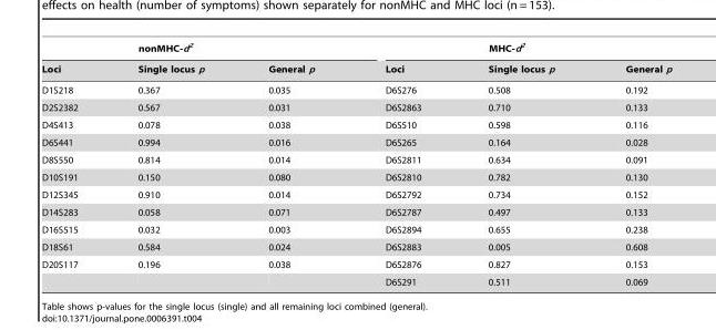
<table><thead><tr><td colspan="3">nonMHC-d<sup>2</sup></td><td colspan="3">MHC-d<sup>2</sup></td></tr><tr><td>Loci</td><td>Single locus p</td><td>General p</td><td>Loci</td><td>Single locus p</td><td>General p</td></tr></thead><tbody><tr><td>D1S218</td><td>0.367</td><td>0.035</td><td>D6S276</td><td>0.508</td><td>0.192</td></tr><tr><td>D2S2382</td><td>0.567</td><td>0.031</td><td>D6S2863</td><td>0.710</td><td>0.133</td></tr><tr><td>D4S413</td><td>0.078</td><td>0.038</td><td>D6S510</td><td>0.598</td><td>0.116</td></tr><tr><td>D6S441</td><td>0.994</td><td>0.016</td><td>D6S265</td><td>0.164</td><td>0.028</td></tr><tr><td>D8S550</td><td>0.814</td><td>0.014</td><td>D6S2811</td><td>0.634</td><td>0.091</td></tr><tr><td>D10S191</td><td>0.150</td><td>0.080</td><td>D6S2810</td><td>0.782</td><td>0.130</td></tr><tr><td>D12S345</td><td>0.910</td><td>0.014</td><td>D6S2792</td><td>0.734</td><td>0.152</td></tr><tr><td>D14S283</td><td>0.058</td><td>0.071</td><td>D6S2787</td><td>0.497</td><td>0.133</td></tr><tr><td>D16S515</td><td>0.032</td><td>0.003</td><td>D6S2894</td><td>0.655</td><td>0.238</td></tr><tr><td>D18S61</td><td>0.584</td><td>0.024</td><td>D6S2883</td><td>0.005</td><td>0.608</td></tr><tr><td rowspan="2">D20S117</td><td>0.196</td><td>0.038</td><td>D6S2876</td><td>0.827</td><td>0.153</td></tr><tr><td></td><td></td><td>D6S291</td><td>0.511</td><td>0.069</td></tr></tbody></table>